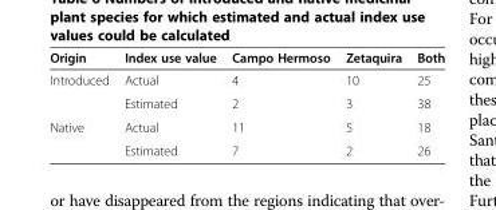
<table><thead><tr><td>Origin</td><td>Index use value</td><td>Campo Hermoso</td><td>Zetaquira</td><td>Both</td></tr></thead><tbody><tr><td rowspan="2">Introduced</td><td>Actual</td><td>4</td><td>10</td><td>25</td></tr><tr><td>Estimated</td><td>2</td><td>3</td><td>38</td></tr><tr><td rowspan="2">Native</td><td>Actual</td><td>11</td><td>5</td><td>18</td></tr><tr><td>Estimated</td><td>7</td><td>2</td><td>26</td></tr></tbody></table>